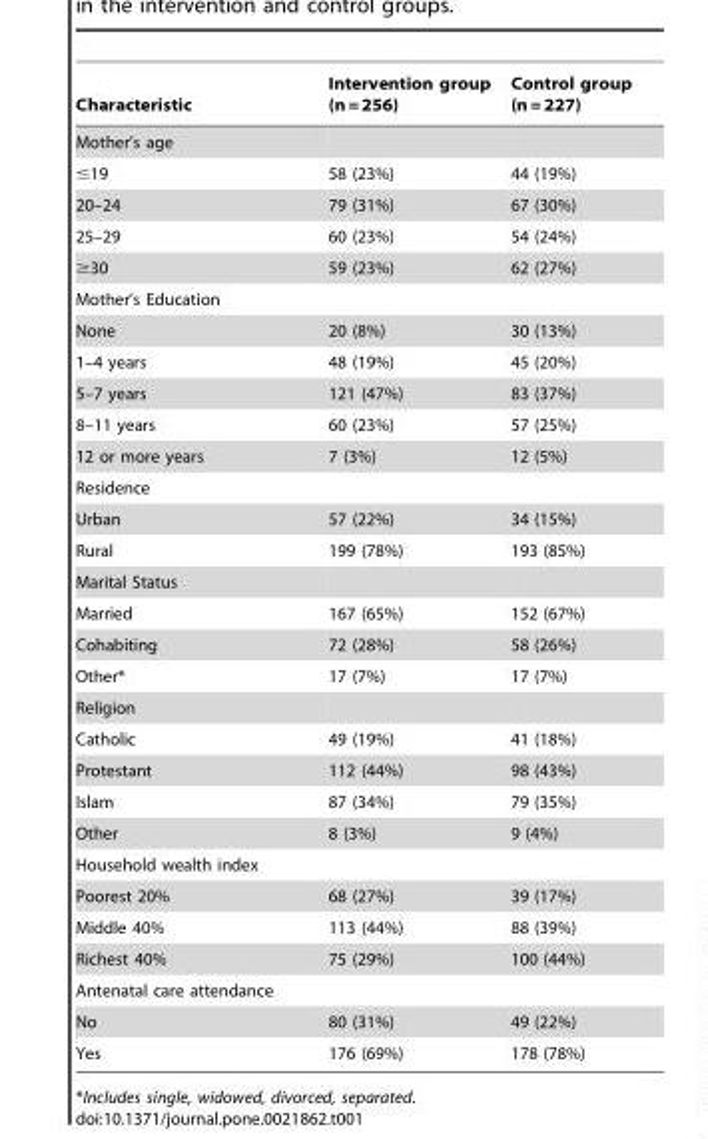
<table><thead><tr><td>Characteristic</td><td>Intervention group (n = 256)</td><td>Control group (n = 227)</td></tr></thead><tbody><tr><td colspan="3">Mother’s age</td></tr><tr><td>≤19</td><td>58 (23%)</td><td>44 (19%)</td></tr><tr><td>20–24</td><td>79 (31%)</td><td>67 (30%)</td></tr><tr><td>25–29</td><td>60 (23%)</td><td>54 (24%)</td></tr><tr><td>≥30</td><td>59 (23%)</td><td>62 (27%)</td></tr><tr><td colspan="3">Mother’s Education</td></tr><tr><td>None</td><td>20 (8%)</td><td>30 (13%)</td></tr><tr><td>1–4 years</td><td>48 (19%)</td><td>45 (20%)</td></tr><tr><td>5–7 years</td><td>121 (47%)</td><td>83 (37%)</td></tr><tr><td>8–11 years</td><td>60 (23%)</td><td>57 (25%)</td></tr><tr><td>12 or more years</td><td>7 (3%)</td><td>12 (5%)</td></tr><tr><td colspan="3">Residence</td></tr><tr><td>Urban</td><td>57 (22%)</td><td>34 (15%)</td></tr><tr><td>Rural</td><td>199 (78%)</td><td>193 (85%)</td></tr><tr><td colspan="3">Marital Status</td></tr><tr><td>Married</td><td>167 (65%)</td><td>152 (67%)</td></tr><tr><td>Cohabiting</td><td>72 (28%)</td><td>58 (26%)</td></tr><tr><td>Other*</td><td>17 (7%)</td><td>17 (7%)</td></tr><tr><td colspan="3">Religion</td></tr><tr><td>Catholic</td><td>49 (19%)</td><td>41 (18%)</td></tr><tr><td>Protestant</td><td>112 (44%)</td><td>98 (43%)</td></tr><tr><td>Islam</td><td>87 (34%)</td><td>79 (35%)</td></tr><tr><td>Other</td><td>8 (3%)</td><td>9 (4%)</td></tr><tr><td colspan="3">Household wealth index</td></tr><tr><td>Poorest 20%</td><td>68 (27%)</td><td>39 (17%)</td></tr><tr><td>Middle 40%</td><td>113 (44%)</td><td>88 (39%)</td></tr><tr><td>Richest 40%</td><td>75 (29%)</td><td>100 (44%)</td></tr><tr><td colspan="3">Antenatal care attendance</td></tr><tr><td>No</td><td>80 (31%)</td><td>49 (22%)</td></tr><tr><td>Yes</td><td>176 (69%)</td><td>178 (78%)</td></tr></tbody></table>